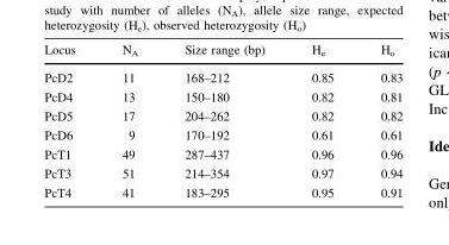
<table><thead><tr><td>Locus</td><td>N<sub>A</sub></td><td>Size range (bp)</td><td>H<sub>e</sub></td><td>H<sub>o</sub></td></tr></thead><tbody><tr><td>PcD2</td><td>11</td><td>168–212</td><td>0.85</td><td>0.83</td></tr><tr><td>PcD4</td><td>13</td><td>150–180</td><td>0.82</td><td>0.81</td></tr><tr><td>PcD5</td><td>17</td><td>204–262</td><td>0.82</td><td>0.82</td></tr><tr><td>PcD6</td><td>9</td><td>170–192</td><td>0.61</td><td>0.61</td></tr><tr><td>PcT1</td><td>49</td><td>287–437</td><td>0.96</td><td>0.96</td></tr><tr><td>PcT3</td><td>51</td><td>214–354</td><td>0.97</td><td>0.94</td></tr><tr><td>PcT4</td><td>41</td><td>183–295</td><td>0.95</td><td>0.91</td></tr></tbody></table>